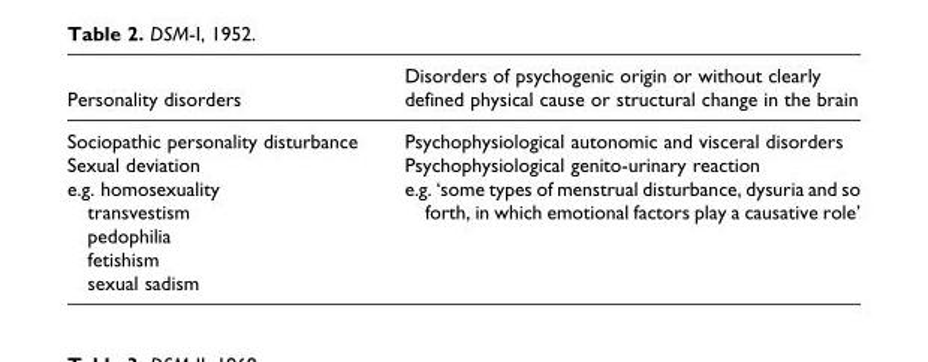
<table><thead><tr><td>Personality disorders</td><td>Disorders of psychogenic origin or without clearly defined physical cause or structural change in the brain</td></tr></thead><tbody><tr><td>Sociopathic personality disturbance</td><td>Psychophysiological autonomic and visceral disorders</td></tr><tr><td>Sexual deviation</td><td>Psychophysiological genito-urinary reaction</td></tr><tr><td>e.g. homosexuality transvestism pedophilia fetishism sexual sadism</td><td>e.g. ‘some types of menstrual disturbance, dysuria and so forth, in which emotional factors play a causative role’</td></tr></tbody></table>